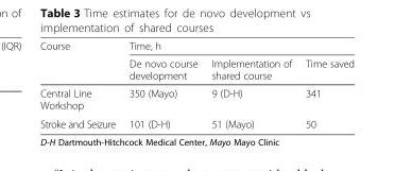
<table><thead><tr><td rowspan="2">Course</td><td colspan="3">Time, h</td></tr><tr><td>De novo course development</td><td>Implementation of shared course</td><td>Time saved</td></tr></thead><tbody><tr><td>Central Line Workshop</td><td>350 (Mayo)</td><td>9 (D-H)</td><td>341</td></tr><tr><td>Stroke and Seizure</td><td>101 (D-H)</td><td>51 (Mayo)</td><td>50</td></tr></tbody></table>